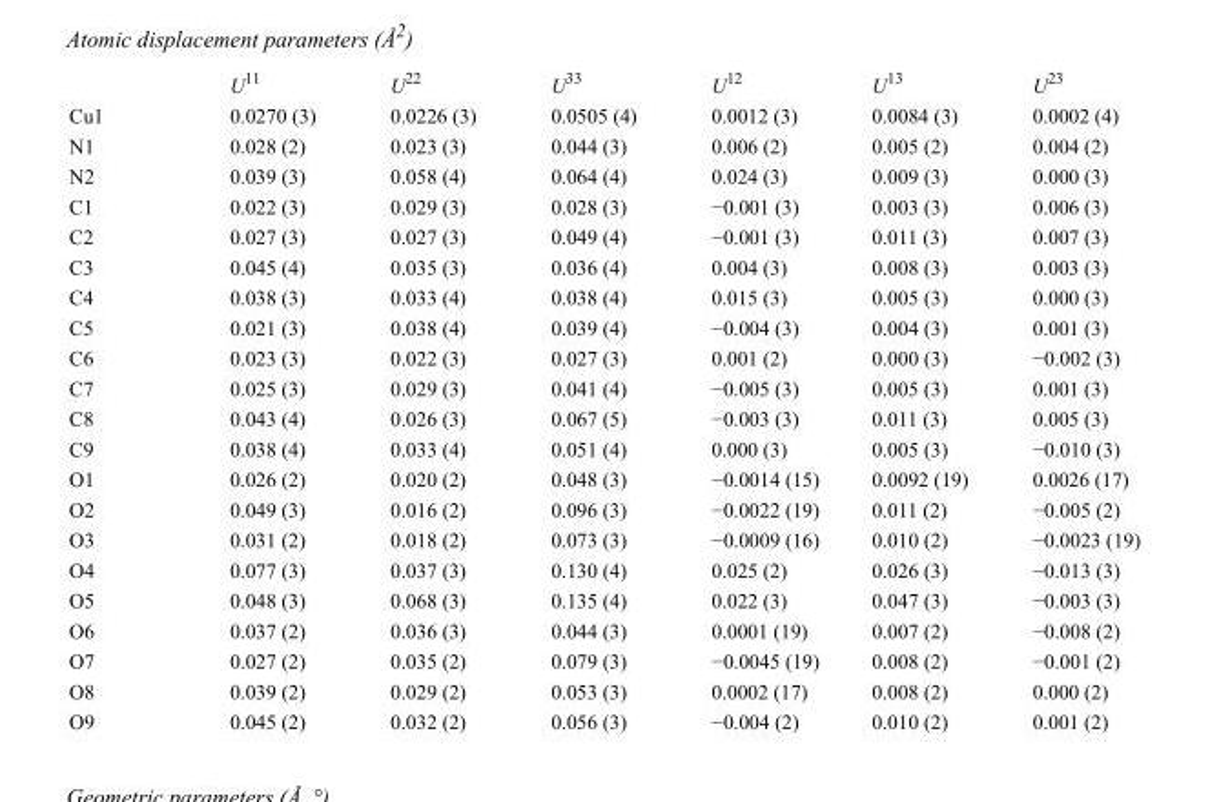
<table><thead><tr><td></td><td>U<sup>11</sup></td><td>U<sup>22</sup></td><td>U<sup>33</sup></td><td>U<sup>12</sup></td><td>U<sup>13</sup></td><td>U<sup>23</sup></td></tr></thead><tbody><tr><td>Cu1</td><td>0.0270 (3)</td><td>0.0226 (3)</td><td>0.0505 (4)</td><td>0.0012 (3)</td><td>0.0084 (3)</td><td>0.0002 (4)</td></tr><tr><td>N1</td><td>0.028 (2)</td><td>0.023 (3)</td><td>0.044 (3)</td><td>0.006 (2)</td><td>0.005 (2)</td><td>0.004 (2)</td></tr><tr><td>N2</td><td>0.039 (3)</td><td>0.058 (4)</td><td>0.064 (4)</td><td>0.024 (3)</td><td>0.009 (3)</td><td>0.000 (3)</td></tr><tr><td>C1</td><td>0.022 (3)</td><td>0.029 (3)</td><td>0.028 (3)</td><td>−0.001 (3)</td><td>0.003 (3)</td><td>0.006 (3)</td></tr><tr><td>C2</td><td>0.027 (3)</td><td>0.027 (3)</td><td>0.049 (4)</td><td>−0.001 (3)</td><td>0.011 (3)</td><td>0.007 (3)</td></tr><tr><td>C3</td><td>0.045 (4)</td><td>0.035 (3)</td><td>0.036 (4)</td><td>0.004 (3)</td><td>0.008 (3)</td><td>0.003 (3)</td></tr><tr><td>C4</td><td>0.038 (3)</td><td>0.033 (4)</td><td>0.038 (4)</td><td>0.015 (3)</td><td>0.005 (3)</td><td>0.000 (3)</td></tr><tr><td>C5</td><td>0.021 (3)</td><td>0.038 (4)</td><td>0.039 (4)</td><td>−0.004 (3)</td><td>0.004 (3)</td><td>0.001 (3)</td></tr><tr><td>C6</td><td>0.023 (3)</td><td>0.022 (3)</td><td>0.027 (3)</td><td>0.001 (2)</td><td>0.000 (3)</td><td>−0.002 (3)</td></tr><tr><td>C7</td><td>0.025 (3)</td><td>0.029 (3)</td><td>0.041 (4)</td><td>−0.005 (3)</td><td>0.005 (3)</td><td>0.001 (3)</td></tr><tr><td>C8</td><td>0.043 (4)</td><td>0.026 (3)</td><td>0.067 (5)</td><td>−0.003 (3)</td><td>0.011 (3)</td><td>0.005 (3)</td></tr><tr><td>C9</td><td>0.038 (4)</td><td>0.033 (4)</td><td>0.051 (4)</td><td>0.000 (3)</td><td>0.005 (3)</td><td>−0.010 (3)</td></tr><tr><td>O1</td><td>0.026 (2)</td><td>0.020 (2)</td><td>0.048 (3)</td><td>−0.0014 (15)</td><td>0.0092 (19)</td><td>0.0026 (17)</td></tr><tr><td>O2</td><td>0.049 (3)</td><td>0.016 (2)</td><td>0.096 (3)</td><td>−0.0022 (19)</td><td>0.011 (2)</td><td>−0.005 (2)</td></tr><tr><td>O3</td><td>0.031 (2)</td><td>0.018 (2)</td><td>0.073 (3)</td><td>−0.0009 (16)</td><td>0.010 (2)</td><td>−0.0023 (19)</td></tr><tr><td>O4</td><td>0.077 (3)</td><td>0.037 (3)</td><td>0.130 (4)</td><td>0.025 (2)</td><td>0.026 (3)</td><td>−0.013 (3)</td></tr><tr><td>O5</td><td>0.048 (3)</td><td>0.068 (3)</td><td>0.135 (4)</td><td>0.022 (3)</td><td>0.047 (3)</td><td>−0.003 (3)</td></tr><tr><td>O6</td><td>0.037 (2)</td><td>0.036 (3)</td><td>0.044 (3)</td><td>0.0001 (19)</td><td>0.007 (2)</td><td>−0.008 (2)</td></tr><tr><td>O7</td><td>0.027 (2)</td><td>0.035 (2)</td><td>0.079 (3)</td><td>−0.0045 (19)</td><td>0.008 (2)</td><td>−0.001 (2)</td></tr><tr><td>O8</td><td>0.039 (2)</td><td>0.029 (2)</td><td>0.053 (3)</td><td>0.0002 (17)</td><td>0.008 (2)</td><td>0.000 (2)</td></tr><tr><td>O9</td><td>0.045 (2)</td><td>0.032 (2)</td><td>0.056 (3)</td><td>−0.004 (2)</td><td>0.010 (2)</td><td>0.001 (2)</td></tr></tbody></table>